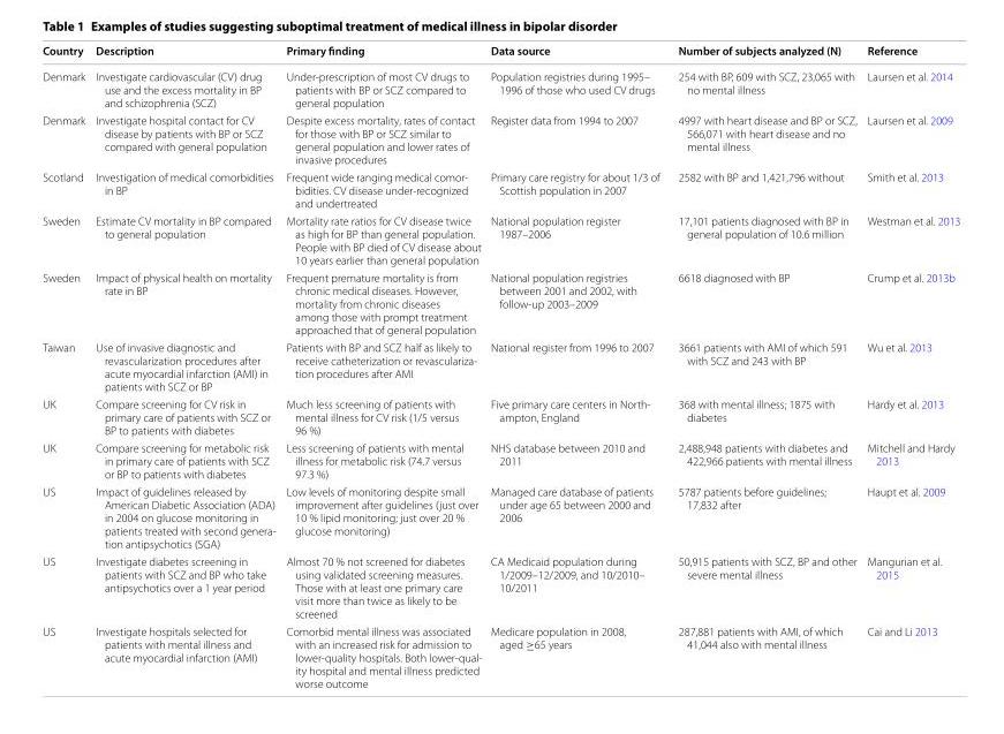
<table><thead><tr><td>Country</td><td>Description</td><td>Primary finding</td><td>Data source</td><td>Number of subjects analyzed (N)</td><td>Reference</td></tr></thead><tbody><tr><td>Denmark</td><td>Investigate cardiovascular (CV) drug use and the excess mortality in BP and schizophrenia (SCZ)</td><td>Under‑prescription of most CV drugs to patients with BP or SCZ compared to general population</td><td>Population registries during 1995– 1996 of those who used CV drugs</td><td>254 with BP, 609 with SCZ, 23,065 with no mental illness</td><td>Laursen et al. 2014</td></tr><tr><td>Denmark</td><td>Investigate hospital contact for CV disease by patients with BP or SCZ compared with general population</td><td>Despite excess mortality, rates of contact for those with BP or SCZ similar to general population and lower rates of invasive procedures</td><td>Register data from 1994 to 2007</td><td>4997 with heart disease and BP or SCZ, 566,071 with heart disease and no mental illness</td><td>Laursen et al. 2009</td></tr><tr><td>Scotland</td><td>Investigation of medical comorbidities in BP</td><td>Frequent wide ranging medical comor‑ bidities. CV disease under‑recognized and undertreated</td><td>Primary care registry for about 1/3 of Scottish population in 2007</td><td>2582 with BP and 1,421,796 without</td><td>Smith et al. 2013</td></tr><tr><td>Sweden</td><td>Estimate CV mortality in BP compared to general population</td><td>Mortality rate ratios for CV disease twice as high for BP than general population. People with BP died of CV disease about 10 years earlier than general population</td><td>National population register 1987–2006</td><td>17,101 patients diagnosed with BP in general population of 10.6 million</td><td>Westman et al. 2013</td></tr><tr><td>Sweden</td><td>Impact of physical health on mortality rate in BP</td><td>Frequent premature mortality is from chronic medical diseases. However, mortality from chronic diseases among those with prompt treatment approached that of general population</td><td>National population registries between 2001 and 2002, with follow‑up 2003–2009</td><td>6618 diagnosed with BP</td><td>Crump et al. 2013b</td></tr><tr><td>Taiwan</td><td>Use of invasive diagnostic and revascularization procedures after acute myocardial infarction (AMI) in patients with SCZ or BP</td><td>Patients with BP and SCZ half as likely to receive catheterization or revasculariza‑ tion procedures after AMI</td><td>National register from 1996 to 2007</td><td>3661 patients with AMI of which 591 with SCZ and 243 with BP</td><td>Wu et al. 2013</td></tr><tr><td>UK</td><td>Compare screening for CV risk in primary care of patients with SCZ or BP to patients with diabetes</td><td>Much less screening of patients with mental illness for CV risk (1/5 versus 96 %)</td><td>Five primary care centers in North‑ ampton, England</td><td>368 with mental illness; 1875 with diabetes</td><td>Hardy et al. 2013</td></tr><tr><td>UK</td><td>Compare screening for metabolic risk in primary care of patients with SCZ or BP to patients with diabetes</td><td>Less screening of patients with mental illness for metabolic risk (74.7 versus 97.3 %)</td><td>NHS database between 2010 and 2011</td><td>2,488,948 patients with diabetes and 422,966 patients with mental illness</td><td>Mitchell and Hardy 2013</td></tr><tr><td>US</td><td>Impact of guidelines released by American Diabetic Association (ADA) in 2004 on glucose monitoring in patients treated with second genera‑ tion antipsychotics (SGA)</td><td>Low levels of monitoring despite small improvement after guidelines (just over 10 % lipid monitoring; just over 20 % glucose monitoring)</td><td>Managed care database of patients under age 65 between 2000 and 2006</td><td>5787 patients before guidelines; 17,832 after</td><td>Haupt et al. 2009</td></tr><tr><td>US</td><td>Investigate diabetes screening in patients with SCZ and BP who take antipsychotics over a 1 year period</td><td>Almost 70 % not screened for diabetes using validated screening measures. Those with at least one primary care visit more than twice as likely to be screened</td><td>CA Medicaid population during 1/2009–12/2009, and 10/2010– 10/2011</td><td>50,915 patients with SCZ, BP and other severe mental illness</td><td>Mangurian et al. 2015</td></tr><tr><td>US</td><td>Investigate hospitals selected for patients with mental illness and acute myocardial infarction (AMI)</td><td>Comorbid mental illness was associated with an increased risk for admission to lower‑quality hospitals. Both lower‑qual‑ ity hospital and mental illness predicted worse outcome</td><td>Medicare population in 2008, aged ≥65 years</td><td>287,881 patients with AMI, of which 41,044 also with mental illness</td><td>Cai and Li 2013</td></tr></tbody></table>